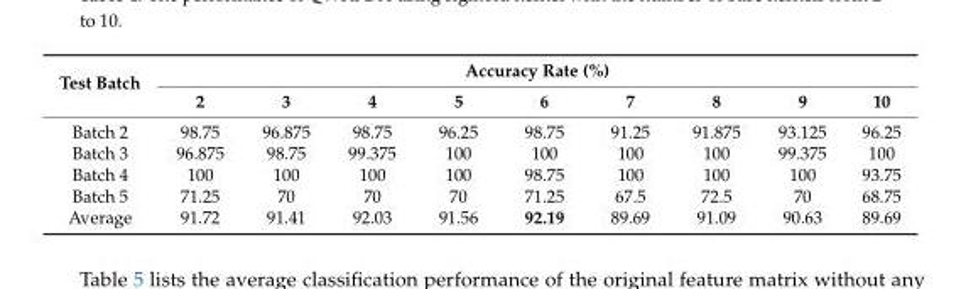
<table><thead><tr><td rowspan="2">Test Batch</td><td colspan="9">Accuracy Rate (%)</td></tr><tr><td>2</td><td>3</td><td>4</td><td>5</td><td>6</td><td>7</td><td>8</td><td>9</td><td>10</td></tr></thead><tbody><tr><td>Batch 2</td><td>98.75</td><td>96.875</td><td>98.75</td><td>96.25</td><td>98.75</td><td>91.25</td><td>91.875</td><td>93.125</td><td>96.25</td></tr><tr><td>Batch 3</td><td>96.875</td><td>98.75</td><td>99.375</td><td>100</td><td>100</td><td>100</td><td>100</td><td>99.375</td><td>100</td></tr><tr><td>Batch 4</td><td>100</td><td>100</td><td>100</td><td>100</td><td>98.75</td><td>100</td><td>100</td><td>100</td><td>93.75</td></tr><tr><td>Batch 5</td><td>71.25</td><td>70</td><td>70</td><td>70</td><td>71.25</td><td>67.5</td><td>72.5</td><td>70</td><td>68.75</td></tr><tr><td>Average</td><td>91.72</td><td>91.41</td><td>92.03</td><td>91.56</td><td>92.19</td><td>89.69</td><td>91.09</td><td>90.63</td><td>89.69</td></tr></tbody></table>